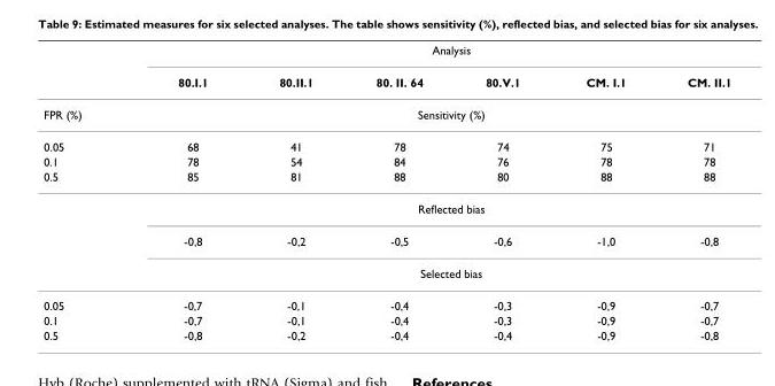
<table><thead><tr><td rowspan="2"></td><td colspan="6">Analysis</td></tr><tr><td>80.I.1</td><td>80.II.1</td><td>80. II. 64</td><td>80.V.1</td><td>CM. I.1</td><td>CM. II.1</td></tr></thead><tbody><tr><td>FPR (%)</td><td colspan="6">Sensitivity (%)</td></tr><tr><td>0.05</td><td>68</td><td>41</td><td>78</td><td>74</td><td>75</td><td>71</td></tr><tr><td>0.1</td><td>78</td><td>54</td><td>84</td><td>76</td><td>78</td><td>78</td></tr><tr><td rowspan="4">0.5</td><td>85</td><td>81</td><td>88</td><td>80</td><td>88</td><td>88</td></tr><tr><td colspan="6">Reflected bias</td></tr><tr><td>-0,8</td><td>-0,2</td><td>-0,5</td><td>-0,6</td><td>-1,0</td><td>-0,8</td></tr><tr><td colspan="6">Selected bias</td></tr><tr><td>0.05</td><td>-0,7</td><td>-0,1</td><td>-0,4</td><td>-0,3</td><td>-0,9</td><td>-0,7</td></tr><tr><td>0.1</td><td>-0,7</td><td>-0,1</td><td>-0,4</td><td>-0,3</td><td>-0,9</td><td>-0,7</td></tr><tr><td>0.5</td><td>-0,8</td><td>-0,2</td><td>-0,4</td><td>-0,4</td><td>-0,9</td><td>-0,8</td></tr></tbody></table>